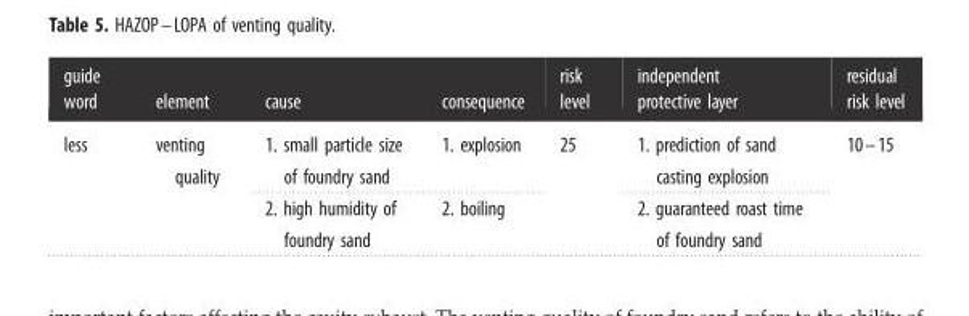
<table><thead><tr><td>guide word</td><td>element</td><td>cause</td><td>consequence</td><td>risk level</td><td>independent protective layer</td><td>residual risk level</td></tr></thead><tbody><tr><td rowspan="2">less</td><td rowspan="2">venting quality</td><td>1. small particle size of foundry sand</td><td>1. explosion</td><td rowspan="2">25</td><td>1. prediction of sand casting explosion</td><td rowspan="2">10–15</td></tr><tr><td>2. high humidity of foundry sand</td><td>2. boiling</td><td>2. guaranteed roast time of foundry sand</td></tr></tbody></table>